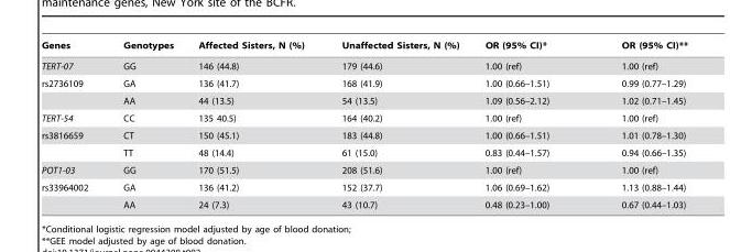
<table><thead><tr><td>Genes</td><td>Genotypes</td><td>Affected Sisters, N (%)</td><td>Unaffected Sisters, N (%)</td><td>OR (95% CI)*</td><td>OR (95% CI)**</td></tr></thead><tbody><tr><td>TERT-07</td><td>GG</td><td>146 (44.8)</td><td>179 (44.6)</td><td>1.00 (ref)</td><td>1.00 (ref)</td></tr><tr><td rowspan="2">rs2736109</td><td>GA</td><td>136 (41.7)</td><td>168 (41.9)</td><td>1.00 (0.66–1.51)</td><td>0.99 (0.77–1.29)</td></tr><tr><td>AA</td><td>44 (13.5)</td><td>54 (13.5)</td><td>1.09 (0.56–2.12)</td><td>1.02 (0.71–1.45)</td></tr><tr><td>TERT-54</td><td>CC</td><td>135 40.5)</td><td>164 (40.2)</td><td>1.00 (ref)</td><td>1.00 (ref)</td></tr><tr><td rowspan="2">rs3816659</td><td>CT</td><td>150 (45.1)</td><td>183 (44.8)</td><td>1.00 (0.66–1.51)</td><td>1.01 (0.78–1.30)</td></tr><tr><td>TT</td><td>48 (14.4)</td><td>61 (15.0)</td><td>0.83 (0.44–1.57)</td><td>0.94 (0.66–1.35)</td></tr><tr><td>POT1-03</td><td>GG</td><td>170 (51.5)</td><td>208 (51.6)</td><td>1.00 (ref)</td><td>1.00 (ref)</td></tr><tr><td rowspan="2">rs33964002</td><td>GA</td><td>136 (41.2)</td><td>152 (37.7)</td><td>1.06 (0.69–1.62)</td><td>1.13 (0.88–1.44)</td></tr><tr><td>AA</td><td>24 (7.3)</td><td>43 (10.7)</td><td>0.48 (0.23–1.00)</td><td>0.67 (0.44–1.03)</td></tr></tbody></table>